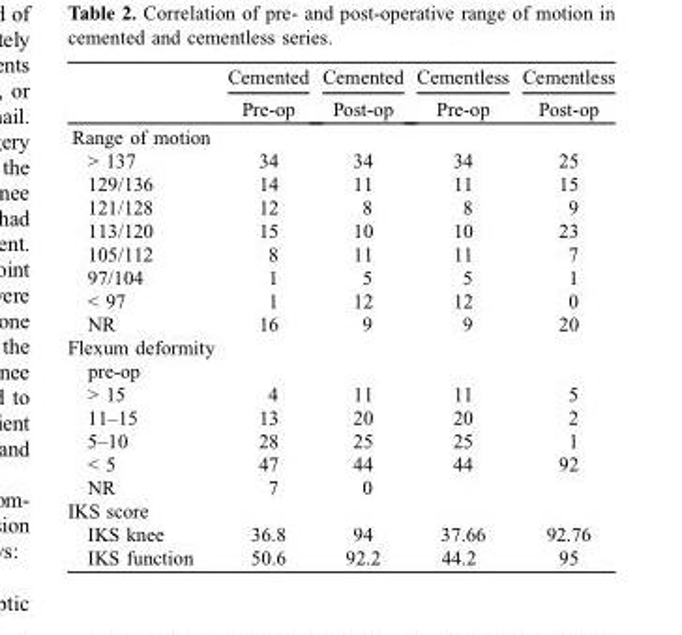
<table><thead><tr><td rowspan="2"></td><td rowspan="2">Cemented Pre-op</td><td rowspan="2">Cemented Post-op</td><td rowspan="2">Cementless Pre-op</td><td rowspan="2">Cementless Post-op</td></tr><tr></tr></thead><tbody><tr><td colspan="5">Range of motion</td></tr><tr><td>&gt; 137</td><td>34</td><td>34</td><td>34</td><td>25</td></tr><tr><td>129/136</td><td>14</td><td>11</td><td>11</td><td>15</td></tr><tr><td>121/128</td><td>12</td><td>8</td><td>8</td><td>9</td></tr><tr><td>113/120</td><td>15</td><td>10</td><td>10</td><td>23</td></tr><tr><td>105/112</td><td>8</td><td>11</td><td>11</td><td>7</td></tr><tr><td>97/104</td><td>1</td><td>5</td><td>5</td><td>1</td></tr><tr><td>&lt; 97</td><td>1</td><td>12</td><td>12</td><td>0</td></tr><tr><td>NR</td><td>16</td><td>9</td><td>9</td><td>20</td></tr><tr><td colspan="5">Flexum deformity pre-op</td></tr><tr><td>&gt; 15</td><td>4</td><td>11</td><td>11</td><td>5</td></tr><tr><td>11–15</td><td>13</td><td>20</td><td>20</td><td>2</td></tr><tr><td>5–10</td><td>28</td><td>25</td><td>25</td><td>1</td></tr><tr><td>&lt; 5</td><td>47</td><td>44</td><td>44</td><td>92</td></tr><tr><td>NR</td><td>7</td><td>0</td><td></td><td></td></tr><tr><td colspan="5">IKS score</td></tr><tr><td>IKS knee</td><td>36.8</td><td>94</td><td>37.66</td><td>92.76</td></tr><tr><td>IKS function</td><td>50.6</td><td>92.2</td><td>44.2</td><td>95</td></tr></tbody></table>